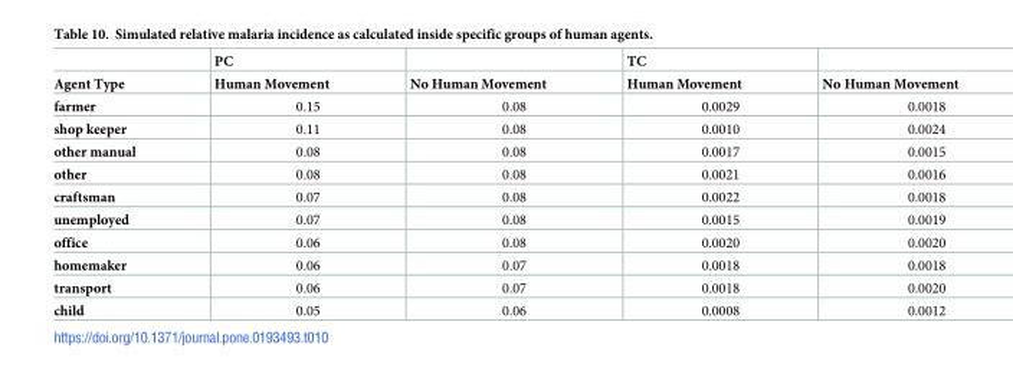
<table><thead><tr><td rowspan="2">Agent Type</td><td rowspan="2">PC Human Movement</td><td rowspan="2">No Human Movement</td><td rowspan="2">TC Human Movement</td><td rowspan="2">No Human Movement</td></tr><tr></tr></thead><tbody><tr><td>farmer</td><td>0.15</td><td>0.08</td><td>0.0029</td><td>0.0018</td></tr><tr><td>shop keeper</td><td>0.11</td><td>0.08</td><td>0.0010</td><td>0.0024</td></tr><tr><td>other manual</td><td>0.08</td><td>0.08</td><td>0.0017</td><td>0.0015</td></tr><tr><td>other</td><td>0.08</td><td>0.08</td><td>0.0021</td><td>0.0016</td></tr><tr><td>craftsman</td><td>0.07</td><td>0.08</td><td>0.0022</td><td>0.0018</td></tr><tr><td>unemployed</td><td>0.07</td><td>0.08</td><td>0.0015</td><td>0.0019</td></tr><tr><td>office</td><td>0.06</td><td>0.08</td><td>0.0020</td><td>0.0020</td></tr><tr><td>homemaker</td><td>0.06</td><td>0.07</td><td>0.0018</td><td>0.0018</td></tr><tr><td>transport</td><td>0.06</td><td>0.07</td><td>0.0018</td><td>0.0020</td></tr><tr><td>child</td><td>0.05</td><td>0.06</td><td>0.0008</td><td>0.0012</td></tr></tbody></table>